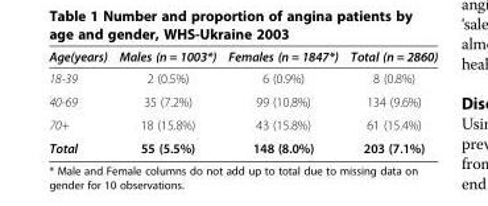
<table><thead><tr><td>Age(years)</td><td>Males (n = 1003*)</td><td>Females (n = 1847*)</td><td>Total (n = 2860)</td></tr></thead><tbody><tr><td>18-39</td><td>2 (0.5%)</td><td>6 (0.9%)</td><td>8 (0.8%)</td></tr><tr><td>40-69</td><td>35 (7.2%)</td><td>99 (10.8%)</td><td>134 (9.6%)</td></tr><tr><td>70+</td><td>18 (15.8%)</td><td>43 (15.8%)</td><td>61 (15.4%)</td></tr><tr><td>Total</td><td>55 (5.5%)</td><td>148 (8.0%)</td><td>203 (7.1%)</td></tr></tbody></table>